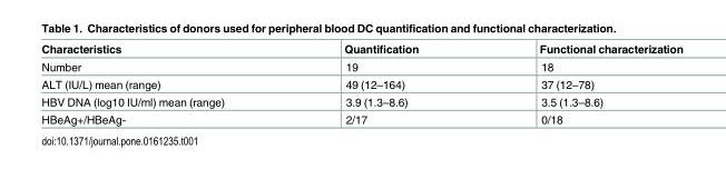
<table><thead><tr><td>Characteristics</td><td>Quantification</td><td>Functional characterization</td></tr></thead><tbody><tr><td>Number</td><td>19</td><td>18</td></tr><tr><td>ALT (IU/L) mean (range)</td><td>49 (12–164)</td><td>37 (12–78)</td></tr><tr><td>HBV DNA (log10 IU/ml) mean (range)</td><td>3.9 (1.3–8.6)</td><td>3.5 (1.3–8.6)</td></tr><tr><td>HBeAg+/HBeAg-</td><td>2/17</td><td>0/18</td></tr></tbody></table>